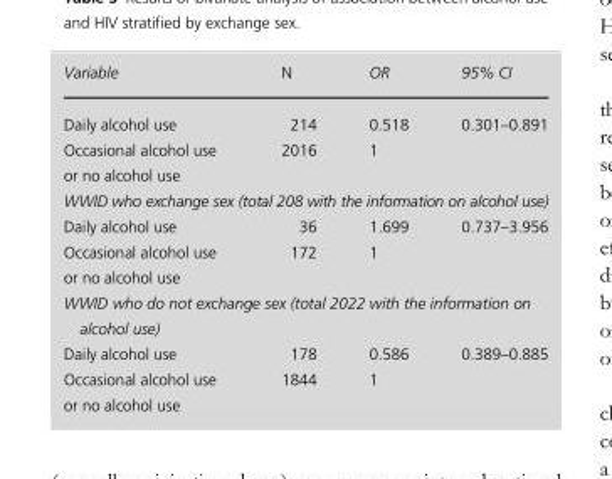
<table><thead><tr><td>Variable</td><td>N</td><td>OR</td><td>95% CI</td></tr></thead><tbody><tr><td>Daily alcohol use</td><td>214</td><td>0.518</td><td>0.301–0.891</td></tr><tr><td>Occasional alcohol use or no alcohol use</td><td>2016</td><td>1</td><td></td></tr><tr><td colspan="4">WWID who exchange sex (total 208 with the information on alcohol use)</td></tr><tr><td>Daily alcohol use</td><td>36</td><td>1.699</td><td>0.737–3.956</td></tr><tr><td>Occasional alcohol use or no alcohol use</td><td>172</td><td>1</td><td></td></tr><tr><td colspan="4">WWID who do not exchange sex (total 2022 with the information on alcohol use)</td></tr><tr><td>Daily alcohol use</td><td>178</td><td>0.586</td><td>0.389–0.885</td></tr><tr><td>Occasional alcohol use or no alcohol use</td><td>1844</td><td>1</td><td></td></tr></tbody></table>